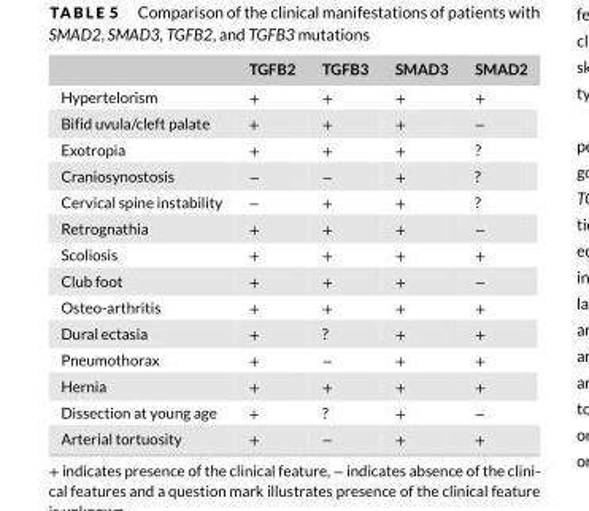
<table><thead><tr><td></td><td>TGFB2</td><td>TGFB3</td><td>SMAD3</td><td>SMAD2</td></tr></thead><tbody><tr><td>Hypertelorism</td><td>+</td><td>+</td><td>+</td><td>+</td></tr><tr><td>Bifid uvula/cleft palate</td><td>+</td><td>+</td><td>+</td><td>−</td></tr><tr><td>Exotropia</td><td>+</td><td>+</td><td>+</td><td>?</td></tr><tr><td>Craniosynostosis</td><td>−</td><td>−</td><td>+</td><td>?</td></tr><tr><td>Cervical spine instability</td><td>−</td><td>+</td><td>+</td><td>?</td></tr><tr><td>Retrognathia</td><td>+</td><td>+</td><td>+</td><td>−</td></tr><tr><td>Scoliosis</td><td>+</td><td>+</td><td>+</td><td>+</td></tr><tr><td>Club foot</td><td>+</td><td>+</td><td>+</td><td>−</td></tr><tr><td>Osteo-arthritis</td><td>+</td><td>+</td><td>+</td><td>+</td></tr><tr><td>Dural ectasia</td><td>+</td><td>?</td><td>+</td><td>+</td></tr><tr><td>Pneumothorax</td><td>+</td><td>−</td><td>+</td><td>+</td></tr><tr><td>Hernia</td><td>+</td><td>+</td><td>+</td><td>+</td></tr><tr><td>Dissection at young age</td><td>+</td><td>?</td><td>+</td><td>−</td></tr><tr><td>Arterial tortuosity</td><td>+</td><td>−</td><td>+</td><td>+</td></tr></tbody></table>